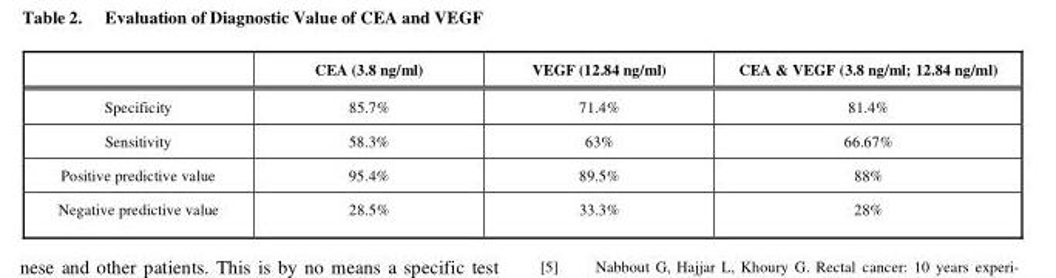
<table><thead><tr><td rowspan="5">Specificity Sensitivity Positive predictive value Negative predictive value</td><td rowspan="5">CEA (3.8 ng/ml) 85.7% 58.3% 95.4% 28.5%</td><td rowspan="5">VEGF (12.84 ng/ml) 71.4% 63% 89.5% 33.3%</td><td rowspan="5">CEA &amp; VEGF (3.8 ng/ml; 12.84 ng/ml) 81.4% 66.67% 88% 28%</td></tr><tr></tr><tr></tr><tr></tr><tr></tr></thead><tbody></tbody></table>